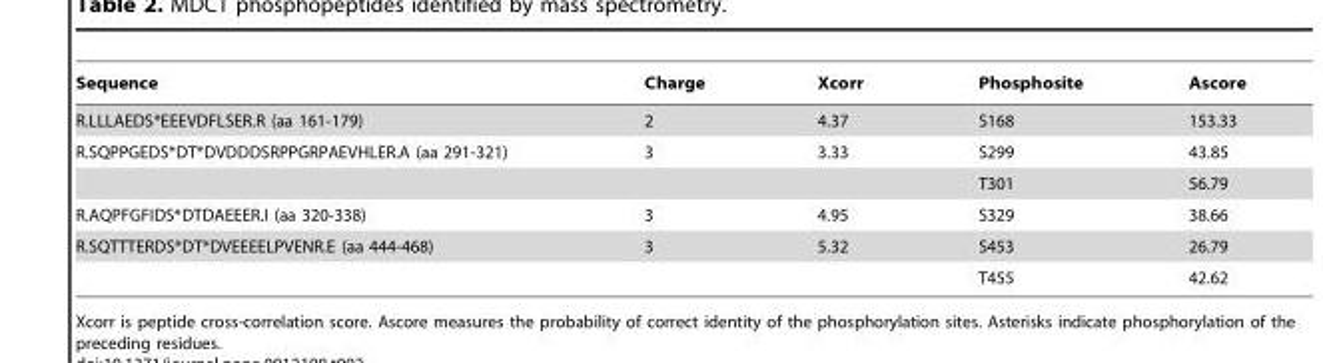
<table><thead><tr><td>Sequence</td><td>Charge</td><td>Xcorr</td><td>Phosphosite</td><td>Ascore</td></tr></thead><tbody><tr><td>R.LLLAEDS*EEEVDFLSER.R (aa 161-179)</td><td>2</td><td>4.37</td><td>S168</td><td>153.33</td></tr><tr><td rowspan="2">R.SQPPGEDS*DT*DVDDDSRPPGRPAEVHLER.A (aa 291-321)</td><td>3</td><td>3.33</td><td>S299</td><td>43.85</td></tr><tr><td></td><td></td><td>T301</td><td>56.79</td></tr><tr><td>R.AQPFGFIDS*DTDAEEER.I (aa 320-338)</td><td>3</td><td>4.95</td><td>S329</td><td>38.66</td></tr><tr><td rowspan="2">R.SQTTTERDS*DT*DVEEEELPVENR.E (aa 444-468)</td><td>3</td><td>5.32</td><td>S453</td><td>26.79</td></tr><tr><td></td><td></td><td>T455</td><td>42.62</td></tr></tbody></table>